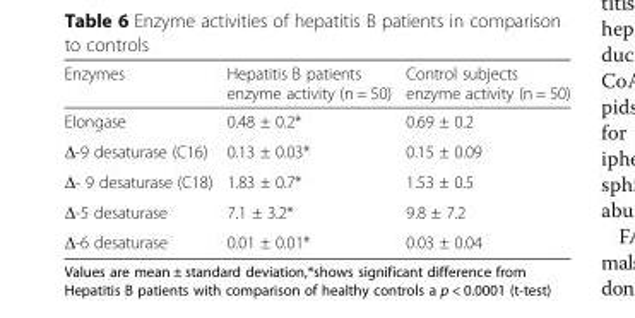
<table><thead><tr><td>Enzymes</td><td>Hepatitis B patients enzyme activity (n = 50)</td><td>Control subjects enzyme activity (n = 50)</td></tr></thead><tbody><tr><td>Elongase</td><td>0.48 ± 0.2*</td><td>0.69 ± 0.2</td></tr><tr><td>Δ-9 desaturase (C16)</td><td>0.13 ± 0.03*</td><td>0.15 ± 0.09</td></tr><tr><td>Δ- 9 desaturase (C18)</td><td>1.83 ± 0.7*</td><td>1.53 ± 0.5</td></tr><tr><td>Δ-5 desaturase</td><td>7.1 ± 3.2*</td><td>9.8 ± 7.2</td></tr><tr><td>Δ-6 desaturase</td><td>0.01 ± 0.01*</td><td>0.03 ± 0.04</td></tr></tbody></table>